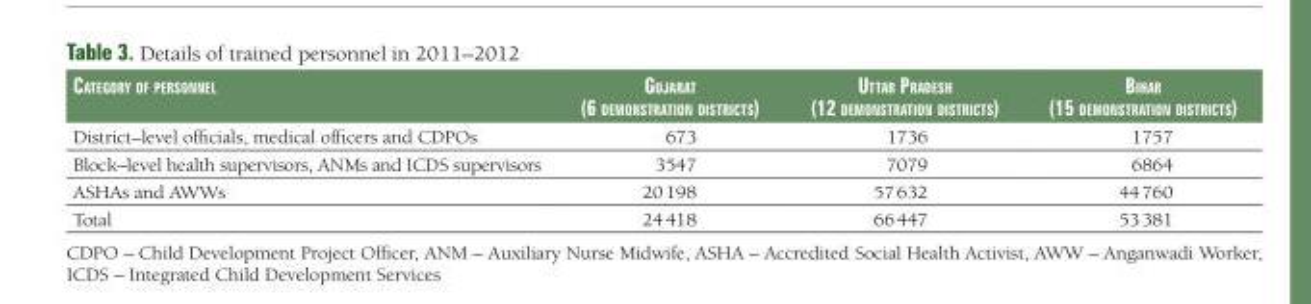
<table><thead><tr><td>cateGory of Personnel</td><td>Gujarat (6 demonstration districts)</td><td>uttar Pradesh (12 demonstration districts)</td><td>Bihar (15 demonstration districts)</td></tr></thead><tbody><tr><td>District–level officials, medical officers and CDPOs</td><td>673</td><td>1736</td><td>1757</td></tr><tr><td>Block–level health supervisors, ANMs and ICDS supervisors</td><td>3547</td><td>7079</td><td>6864</td></tr><tr><td>ASHAs and AWWs</td><td>20 198</td><td>57 632</td><td>44 760</td></tr><tr><td>Total</td><td>24 418</td><td>66 447</td><td>53 381</td></tr></tbody></table>